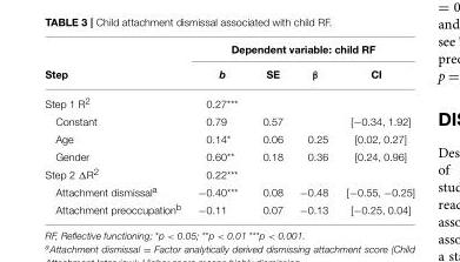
<table><thead><tr><td rowspan="2">Step</td><td colspan="4">Dependent variable: child RF</td></tr><tr><td>b</td><td>SE</td><td>β</td><td>CI</td></tr></thead><tbody><tr><td>Step 1 R<sup>2</sup></td><td>0.27***</td><td></td><td></td><td></td></tr><tr><td>Constant</td><td>0.79</td><td>0.57</td><td></td><td>[−0.34, 1.92]</td></tr><tr><td>Age</td><td>0.14*</td><td>0.06</td><td>0.25</td><td>[0.02, 0.27]</td></tr><tr><td>Gender</td><td>0.60**</td><td>0.18</td><td>0.36</td><td>[0.24, 0.96]</td></tr><tr><td>Step 2 ΔR<sup>2</sup></td><td>0.22***</td><td></td><td></td><td></td></tr><tr><td>Attachment dismissal<sup>a</sup></td><td>−0.40***</td><td>0.08</td><td>−0.48</td><td>[−0.55, −0.25]</td></tr><tr><td>Attachment preoccupation<sup>b</sup></td><td>−0.11</td><td>0.07</td><td>−0.13</td><td>[−0.25, 0.04]</td></tr></tbody></table>